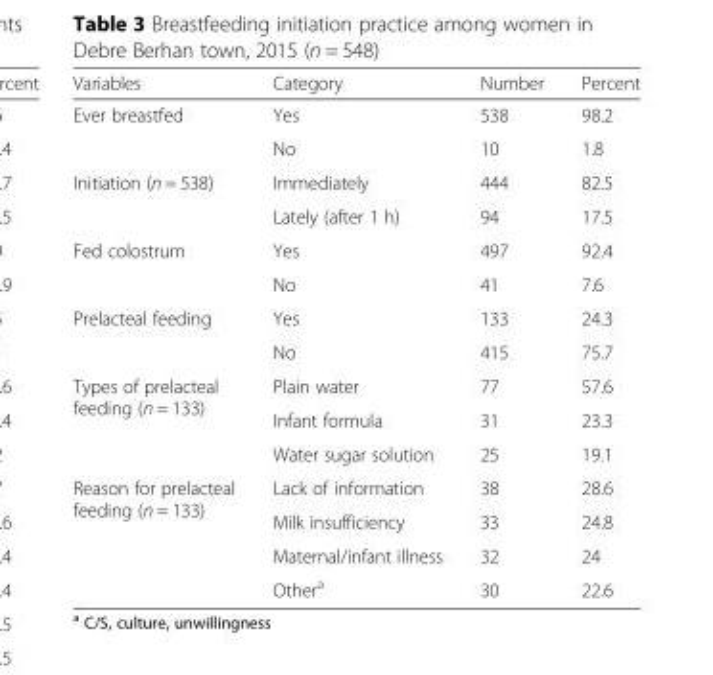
<table><thead><tr><td>Variables</td><td>Category</td><td>Number</td><td>Percent</td></tr></thead><tbody><tr><td rowspan="2">Ever breastfed</td><td>Yes</td><td>538</td><td>98.2</td></tr><tr><td>No</td><td>10</td><td>1.8</td></tr><tr><td rowspan="2">Initiation (n = 538)</td><td>Immediately</td><td>444</td><td>82.5</td></tr><tr><td>Lately (after 1 h)</td><td>94</td><td>17.5</td></tr><tr><td rowspan="2">Fed colostrum</td><td>Yes</td><td>497</td><td>92.4</td></tr><tr><td>No</td><td>41</td><td>7.6</td></tr><tr><td rowspan="2">Prelacteal feeding</td><td>Yes</td><td>133</td><td>24.3</td></tr><tr><td>No</td><td>415</td><td>75.7</td></tr><tr><td rowspan="3">Types of prelacteal feeding (n = 133)</td><td>Plain water</td><td>77</td><td>57.6</td></tr><tr><td>Infant formula</td><td>31</td><td>23.3</td></tr><tr><td>Water sugar solution</td><td>25</td><td>19.1</td></tr><tr><td rowspan="4">Reason for prelacteal feeding (n = 133)</td><td>Lack of information</td><td>38</td><td>28.6</td></tr><tr><td>Milk insufficiency</td><td>33</td><td>24.8</td></tr><tr><td>Maternal/infant illness</td><td>32</td><td>24</td></tr><tr><td>Othera</td><td>30</td><td>22.6</td></tr></tbody></table>